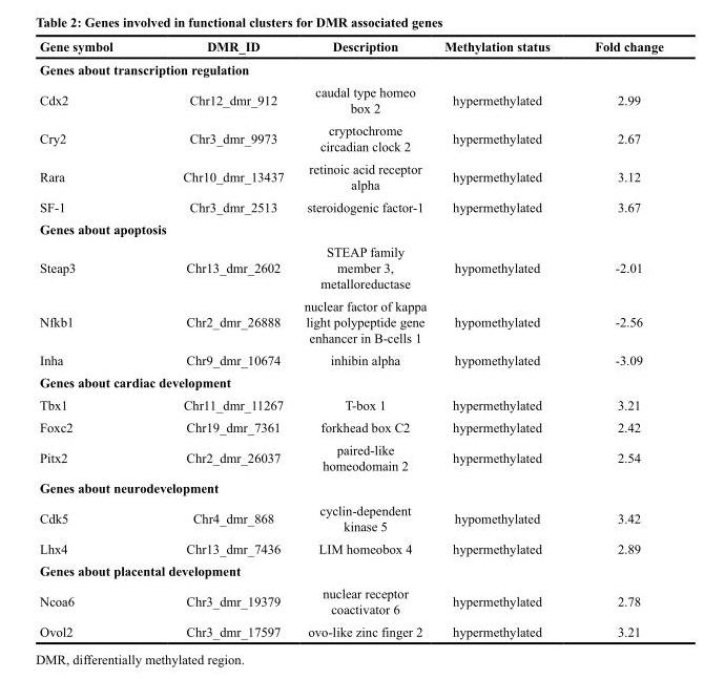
<table><thead><tr><td>Gene symbol</td><td>DMR_ID</td><td>Description</td><td>Methylation status</td><td>Fold change</td></tr></thead><tbody><tr><td colspan="5">Genes about transcription regulation</td></tr><tr><td>Cdx2</td><td>Chr12_dmr_912</td><td>caudal type homeo box 2</td><td>hypermethylated</td><td>2.99</td></tr><tr><td>Cry2</td><td>Chr3_dmr_9973</td><td>cryptochrome circadian clock 2</td><td>hypermethylated</td><td>2.67</td></tr><tr><td>Rara</td><td>Chr10_dmr_13437</td><td>retinoic acid receptor alpha</td><td>hypermethylated</td><td>3.12</td></tr><tr><td>SF-1</td><td>Chr3_dmr_2513</td><td>steroidogenic factor-1</td><td>hypermethylated</td><td>3.67</td></tr><tr><td colspan="5">Genes about apoptosis</td></tr><tr><td>Steap3</td><td>Chr13_dmr_2602</td><td>STEAP family member 3, metalloreductase</td><td>hypomethylated</td><td>-2.01</td></tr><tr><td>Nfkb1</td><td>Chr2_dmr_26888</td><td>nuclear factor of kappa light polypeptide gene enhancer in B-cells 1</td><td>hypomethylated</td><td>-2.56</td></tr><tr><td>Inha</td><td>Chr9_dmr_10674</td><td>inhibin alpha</td><td>hypomethylated</td><td>-3.09</td></tr><tr><td colspan="5">Genes about cardiac development</td></tr><tr><td>Tbx1</td><td>Chr11_dmr_11267</td><td>T-box 1</td><td>hypermethylated</td><td>3.21</td></tr><tr><td>Foxc2</td><td>Chr19_dmr_7361</td><td>forkhead box C2</td><td>hypermethylated</td><td>2.42</td></tr><tr><td>Pitx2</td><td>Chr2_dmr_26037</td><td>paired-like homeodomain 2</td><td>hypermethylated</td><td>2.54</td></tr><tr><td colspan="5">Genes about neurodevelopment</td></tr><tr><td>Cdk5</td><td>Chr4_dmr_868</td><td>cyclin-dependent kinase 5</td><td>hypomethylated</td><td>3.42</td></tr><tr><td>Lhx4</td><td>Chr13_dmr_7436</td><td>LIM homeobox 4</td><td>hypermethylated</td><td>2.89</td></tr><tr><td colspan="5">Genes about placental development</td></tr><tr><td>Ncoa6</td><td>Chr3_dmr_19379</td><td>nuclear receptor coactivator 6</td><td>hypermethylated</td><td>2.78</td></tr><tr><td>Ovol2</td><td>Chr3_dmr_17597</td><td>ovo-like zinc finger 2</td><td>hypermethylated</td><td>3.21</td></tr></tbody></table>